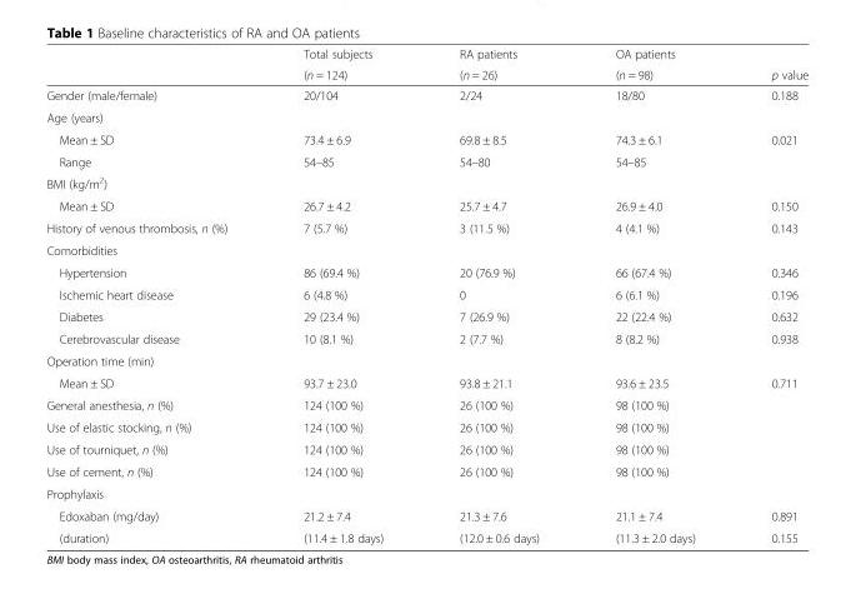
<table><thead><tr><td rowspan="2"></td><td rowspan="2">Total subjects (n = 124)</td><td rowspan="2">RA patients (n = 26)</td><td rowspan="2">OA patients (n = 98)</td><td rowspan="2">p value</td></tr><tr></tr></thead><tbody><tr><td>Gender (male/female)</td><td>20/104</td><td>2/24</td><td>18/80</td><td>0.188</td></tr><tr><td colspan="5">Age (years)</td></tr><tr><td>Mean ± SD</td><td>73.4 ± 6.9</td><td>69.8 ± 8.5</td><td>74.3 ± 6.1</td><td>0.021</td></tr><tr><td>Range</td><td>54–85</td><td>54–80</td><td>54–85</td><td></td></tr><tr><td colspan="5">BMI (kg/m<sup>2</sup>)</td></tr><tr><td>Mean ± SD</td><td>26.7 ± 4.2</td><td>25.7 ± 4.7</td><td>26.9 ± 4.0</td><td>0.150</td></tr><tr><td>History of venous thrombosis, n (%)</td><td>7 (5.7 %)</td><td>3 (11.5 %)</td><td>4 (4.1 %)</td><td>0.143</td></tr><tr><td colspan="5">Comorbidities</td></tr><tr><td>Hypertension</td><td>86 (69.4 %)</td><td>20 (76.9 %)</td><td>66 (67.4 %)</td><td>0.346</td></tr><tr><td>Ischemic heart disease</td><td>6 (4.8 %)</td><td>0</td><td>6 (6.1 %)</td><td>0.196</td></tr><tr><td>Diabetes</td><td>29 (23.4 %)</td><td>7 (26.9 %)</td><td>22 (22.4 %)</td><td>0.632</td></tr><tr><td>Cerebrovascular disease</td><td>10 (8.1 %)</td><td>2 (7.7 %)</td><td>8 (8.2 %)</td><td>0.938</td></tr><tr><td colspan="5">Operation time (min)</td></tr><tr><td>Mean ± SD</td><td>93.7 ± 23.0</td><td>93.8 ± 21.1</td><td>93.6 ± 23.5</td><td>0.711</td></tr><tr><td>General anesthesia, n (%)</td><td>124 (100 %)</td><td>26 (100 %)</td><td>98 (100 %)</td><td></td></tr><tr><td>Use of elastic stocking, n (%)</td><td>124 (100 %)</td><td>26 (100 %)</td><td>98 (100 %)</td><td></td></tr><tr><td>Use of tourniquet, n (%)</td><td>124 (100 %)</td><td>26 (100 %)</td><td>98 (100 %)</td><td></td></tr><tr><td>Use of cement, n (%)</td><td>124 (100 %)</td><td>26 (100 %)</td><td>98 (100 %)</td><td></td></tr><tr><td colspan="5">Prophylaxis</td></tr><tr><td>Edoxaban (mg/day)</td><td>21.2 ± 7.4</td><td>21.3 ± 7.6</td><td>21.1 ± 7.4</td><td>0.891</td></tr><tr><td>(duration)</td><td>(11.4 ± 1.8 days)</td><td>(12.0 ± 0.6 days)</td><td>(11.3 ± 2.0 days)</td><td>0.155</td></tr></tbody></table>